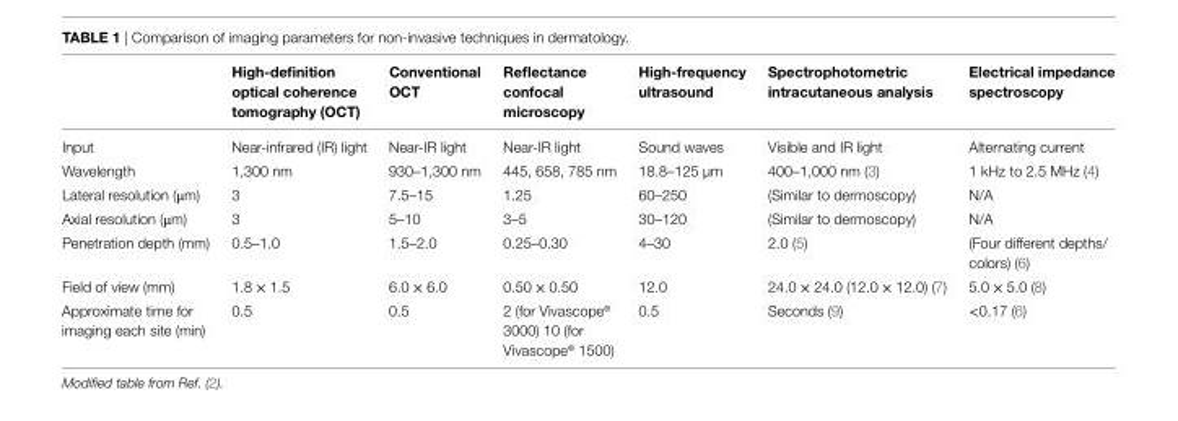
<table><thead><tr><td></td><td>High-definition optical coherence tomography (OCT)</td><td>Conventional OCT</td><td>Reflectance confocal microscopy</td><td>High-frequency ultrasound</td><td>Spectrophotometric intracutaneous analysis</td><td>electrical impedance spectroscopy</td></tr></thead><tbody><tr><td>Input</td><td>Near-infrared (IR) light</td><td>Near-IR light</td><td>Near-IR light</td><td>Sound waves</td><td>Visible and IR light</td><td>Alternating current</td></tr><tr><td>Wavelength</td><td>1,300 nm</td><td>930–1,300 nm</td><td>445, 658, 785 nm</td><td>18.8–125 µm</td><td>400–1,000 nm (3)</td><td>1 kHz to 2.5 MHz (4)</td></tr><tr><td>Lateral resolution (μm)</td><td>3</td><td>7.5–15</td><td>1.25</td><td>60–250</td><td>(Similar to dermoscopy)</td><td>N/A</td></tr><tr><td>Axial resolution (μm)</td><td>3</td><td>5–10</td><td>3–5</td><td>30–120</td><td>(Similar to dermoscopy)</td><td>N/A</td></tr><tr><td>Penetration depth (mm)</td><td>0.5–1.0</td><td>1.5–2.0</td><td>0.25–0.30</td><td>4–30</td><td>2.0 (5)</td><td>(Four different depths/ colors) (6)</td></tr><tr><td>Field of view (mm)</td><td>1.8 × 1.5</td><td>6.0 × 6.0</td><td>0.50 × 0.50</td><td>12.0</td><td>24.0 × 24.0 (12.0 × 12.0) (7)</td><td>5.0 × 5.0 (8)</td></tr><tr><td>Approximate time for imaging each site (min)</td><td>0.5</td><td>0.5</td><td>2 (for Vivascope<sup>®</sup> 3000) 10 (for Vivascope<sup>®</sup> 1500)</td><td>0.5</td><td>Seconds (9)</td><td>&lt;0.17 (6)</td></tr></tbody></table>